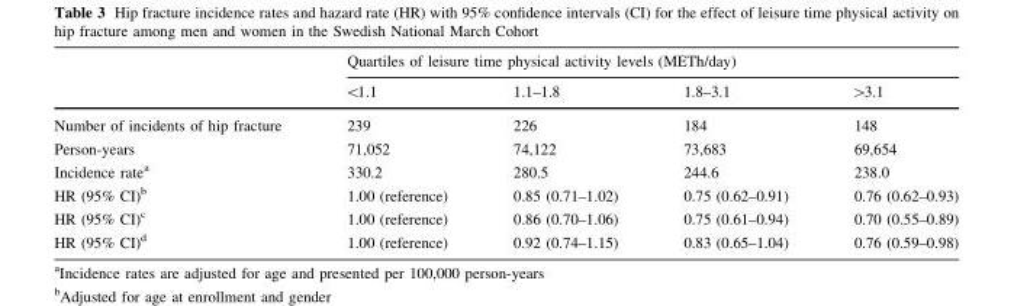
<table><thead><tr><td rowspan="2"></td><td colspan="4">Quartiles of leisure time physical activity levels (METh/day)</td></tr><tr><td>&lt;1.1</td><td>1.1–1.8</td><td>1.8–3.1</td><td>&gt;3.1</td></tr></thead><tbody><tr><td>Number of incidents of hip fracture</td><td>239</td><td>226</td><td>184</td><td>148</td></tr><tr><td>Person-years</td><td>71,052</td><td>74,122</td><td>73,683</td><td>69,654</td></tr><tr><td>Incidence rate<sup>a</sup></td><td>330.2</td><td>280.5</td><td>244.6</td><td>238.0</td></tr><tr><td>HR (95% CI)<sup>b</sup></td><td>1.00 (reference)</td><td>0.85 (0.71–1.02)</td><td>0.75 (0.62–0.91)</td><td>0.76 (0.62–0.93)</td></tr><tr><td>HR (95% CI)<sup>c</sup></td><td>1.00 (reference)</td><td>0.86 (0.70–1.06)</td><td>0.75 (0.61–0.94)</td><td>0.70 (0.55–0.89)</td></tr><tr><td>HR (95% CI)<sup>d</sup></td><td>1.00 (reference)</td><td>0.92 (0.74–1.15)</td><td>0.83 (0.65–1.04)</td><td>0.76 (0.59–0.98)</td></tr></tbody></table>